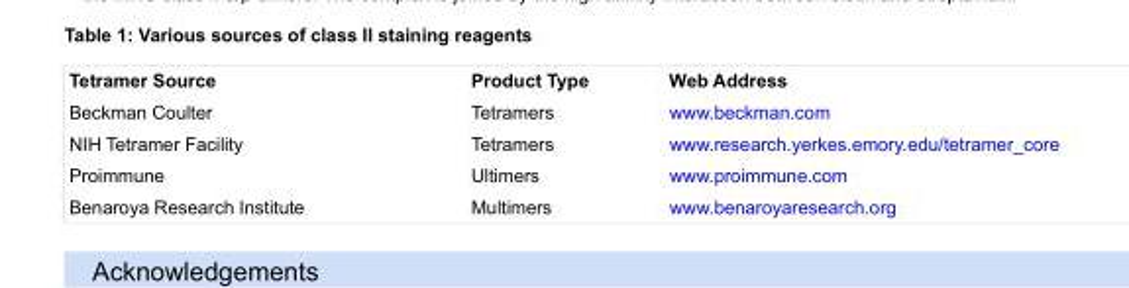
<table><tbody><tr><td>Tetramer Source</td><td>Product Type</td><td>Web Address</td></tr><tr><td>Beckman Coulter</td><td>Tetramers</td><td>www.beckman.com</td></tr><tr><td>NIH Tetramer Facility</td><td>Tetramers</td><td>www.research.yerkes.emory.edu/tetramer_core</td></tr><tr><td>Proimmune</td><td>Ultimers</td><td>www.proimmune.com</td></tr><tr><td>Benaroya Research Institute</td><td>Multimers</td><td>www.benaroyaresearch.org</td></tr></tbody></table>